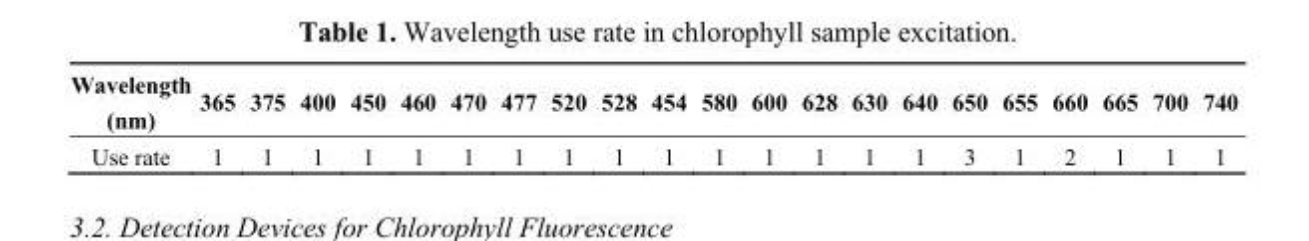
<table><thead><tr><td>Wavelength (nm)</td><td>365</td><td>375</td><td>400</td><td>450</td><td>460</td><td>470</td><td>477</td><td>520</td><td>528</td><td>454</td><td>580</td><td>600</td><td>628</td><td>630</td><td>640</td><td>650</td><td>655</td><td>660</td><td>665</td><td>700</td><td>740</td></tr></thead><tbody><tr><td>Use rate</td><td>1</td><td>1</td><td>1</td><td>1</td><td>1</td><td>1</td><td>1</td><td>1</td><td>1</td><td>1</td><td>1</td><td>1</td><td>1</td><td>1</td><td>1</td><td>3</td><td>1</td><td>2</td><td>1</td><td>1</td><td>1</td></tr></tbody></table>